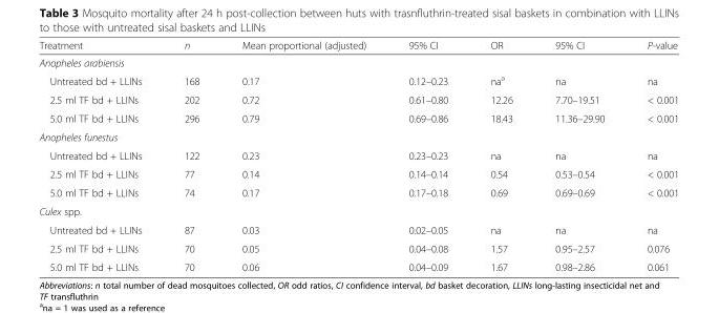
<table><thead><tr><td>Treatment</td><td>n</td><td>Mean proportional (adjusted)</td><td>95% CI</td><td>OR</td><td>95% CI</td><td>P-value</td></tr></thead><tbody><tr><td colspan="7">Anopheles arabiensis</td></tr><tr><td>Untreated bd + LLINs</td><td>168</td><td>0.17</td><td>0.12–0.23</td><td>na<sup>a</sup></td><td>na</td><td>na</td></tr><tr><td>2.5 ml TF bd + LLINs</td><td>202</td><td>0.72</td><td>0.61–0.80</td><td>12.26</td><td>7.70–19.51</td><td>&lt; 0.001</td></tr><tr><td>5.0 ml TF bd + LLINs</td><td>296</td><td>0.79</td><td>0.69–0.86</td><td>18.43</td><td>11.36–29.90</td><td>&lt; 0.001</td></tr><tr><td colspan="7">Anopheles funestus</td></tr><tr><td>Untreated bd + LLINs</td><td>122</td><td>0.23</td><td>0.23–0.23</td><td>na</td><td>na</td><td>na</td></tr><tr><td>2.5 ml TF bd + LLINs</td><td>77</td><td>0.14</td><td>0.14–0.14</td><td>0.54</td><td>0.53–0.54</td><td>&lt; 0.001</td></tr><tr><td>5.0 ml TF bd + LLINs</td><td>74</td><td>0.17</td><td>0.17–0.18</td><td>0.69</td><td>0.69–0.69</td><td>&lt; 0.001</td></tr><tr><td colspan="7">Culex spp.</td></tr><tr><td>Untreated bd + LLINs</td><td>87</td><td>0.03</td><td>0.02–0.05</td><td>na</td><td>na</td><td>na</td></tr><tr><td>2.5 ml TF bd + LLINs</td><td>70</td><td>0.05</td><td>0.04–0.08</td><td>1.57</td><td>0.95–2.57</td><td>0.076</td></tr><tr><td>5.0 ml TF bd + LLINs</td><td>70</td><td>0.06</td><td>0.04–0.09</td><td>1.67</td><td>0.98–2.86</td><td>0.061</td></tr></tbody></table>